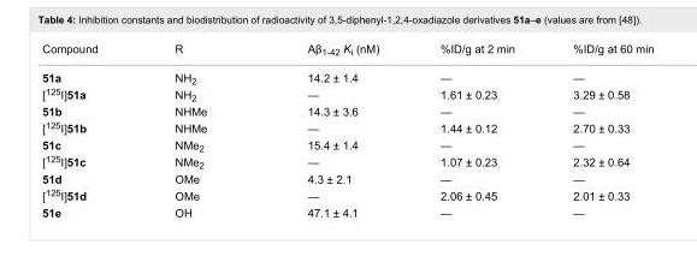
<table><tbody><tr><td>Compound</td><td>R</td><td>Aβ<sub>1-42</sub> K<sub>i</sub> (nM)</td><td>%ID/g at 2 min</td><td>%ID/g at 60 min</td></tr><tr><td>51a</td><td>NH<sub>2</sub></td><td>14.2 ± 1.4</td><td>—</td><td>—</td></tr><tr><td>[<sup>125</sup>I]51a</td><td>NH<sub>2</sub></td><td>—</td><td>1.61 ± 0.23</td><td>3.29 ± 0.58</td></tr><tr><td>51b</td><td>NHMe</td><td>14.3 ± 3.6</td><td>—</td><td>—</td></tr><tr><td>[<sup>125</sup>I]51b</td><td>NHMe</td><td>—</td><td>1.44 ± 0.12</td><td>2.70 ± 0.33</td></tr><tr><td>51c</td><td>NMe<sub>2</sub></td><td>15.4 ± 1.4</td><td>—</td><td>—</td></tr><tr><td>[<sup>125</sup>I]51c</td><td>NMe<sub>2</sub></td><td>—</td><td>1.07 ± 0.23</td><td>2.32 ± 0.64</td></tr><tr><td>51d</td><td>OMe</td><td>4.3 ± 2.1</td><td>—</td><td>—</td></tr><tr><td>[<sup>125</sup>I]51d</td><td>OMe</td><td>—</td><td>2.06 ± 0.45</td><td>2.01 ± 0.33</td></tr><tr><td>51e</td><td>OH</td><td>47.1 ± 4.1</td><td>—</td><td>—</td></tr></tbody></table>